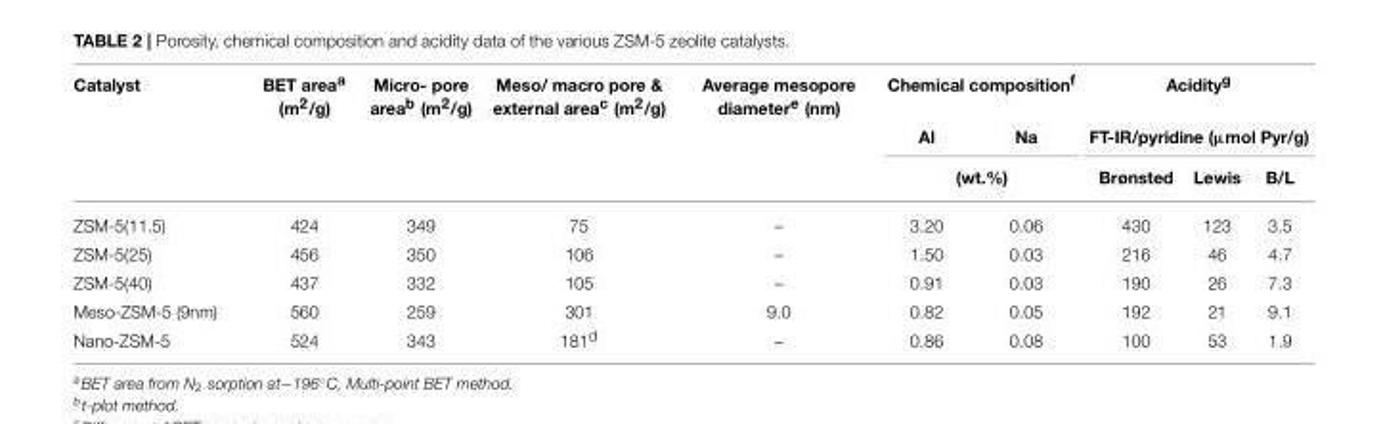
<table><thead><tr><td rowspan="3">Catalyst</td><td rowspan="3">BET area<sup>a</sup> (m<sup>2</sup>/g)</td><td rowspan="3">Micro- pore area<sup>b</sup> (m<sup>2</sup>/g)</td><td rowspan="3">Meso/ macro pore &amp; external area<sup>c</sup> (m<sup>2</sup>/g)</td><td rowspan="3">Average mesopore diameter<sup>e</sup> (nm)</td><td colspan="2">Chemical composition<sup>f</sup></td><td rowspan="2" colspan="3">Acidity<sup>g</sup> FT-IR/pyridine (µmol Pyr/g)</td></tr><tr><td>Al</td><td>Na</td></tr><tr><td colspan="2">(wt.%)</td><td>Brønsted</td><td>Lewis</td><td>B/L</td></tr></thead><tbody><tr><td>ZSM-5(11.5)</td><td>424</td><td>349</td><td>75</td><td>–</td><td>3.20</td><td>0.06</td><td>430</td><td>123</td><td>3.5</td></tr><tr><td>ZSM-5(25)</td><td>456</td><td>350</td><td>106</td><td>–</td><td>1.50</td><td>0.03</td><td>216</td><td>46</td><td>4.7</td></tr><tr><td>ZSM-5(40)</td><td>437</td><td>332</td><td>105</td><td>–</td><td>0.91</td><td>0.03</td><td>190</td><td>26</td><td>7.3</td></tr><tr><td>Meso-ZSM-5 (9nm)</td><td>560</td><td>259</td><td>301</td><td>9.0</td><td>0.82</td><td>0.05</td><td>192</td><td>21</td><td>9.1</td></tr><tr><td>Nano-ZSM-5</td><td>524</td><td>343</td><td>181<sup>d</sup></td><td>–</td><td>0.86</td><td>0.08</td><td>100</td><td>53</td><td>1.9</td></tr></tbody></table>